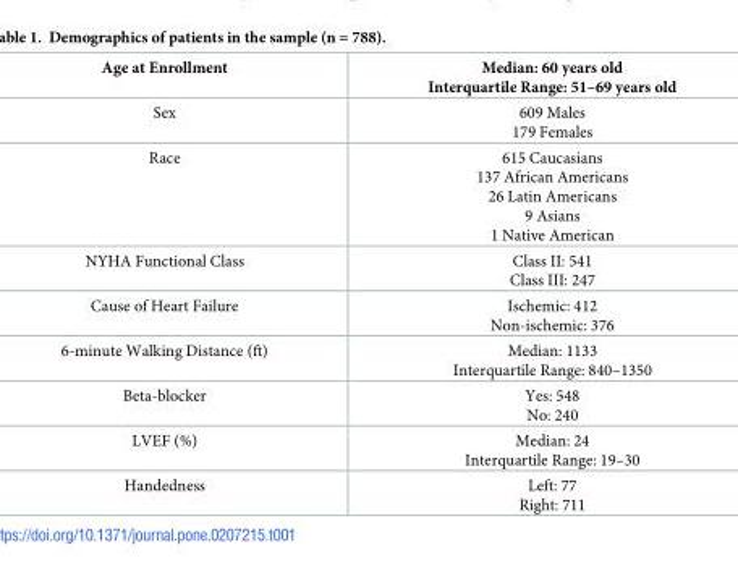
<table><thead><tr><td>Age at Enrollment</td><td>Median: 60 years old Interquartile Range: 51–69 years old</td></tr></thead><tbody><tr><td>Sex</td><td>609 Males 179 Females</td></tr><tr><td>Race</td><td>615 Caucasians 137 African Americans 26 Latin Americans 9 Asians 1 Native American</td></tr><tr><td>NYHA Functional Class</td><td>Class II: 541 Class III: 247</td></tr><tr><td>Cause of Heart Failure</td><td>Ischemic: 412 Non-ischemic: 376</td></tr><tr><td>6-minute Walking Distance (ft)</td><td>Median: 1133 Interquartile Range: 840–1350</td></tr><tr><td>Beta-blocker</td><td>Yes: 548 No: 240</td></tr><tr><td>LVEF (%)</td><td>Median: 24 Interquartile Range: 19–30</td></tr><tr><td>Handedness</td><td>Left: 77 Right: 711</td></tr></tbody></table>